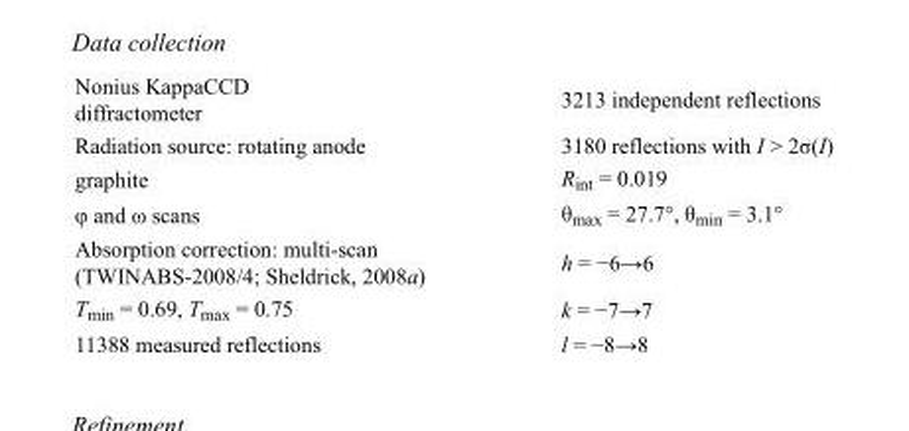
<table><tbody><tr><td>Nonius KappaCCD diffractometer</td><td>3213 independent reflections</td></tr><tr><td>Radiation source: rotating anode</td><td>3180 reflections with I &gt; 2σ(I)</td></tr><tr><td>graphite</td><td>R<sub>int</sub> = 0.019</td></tr><tr><td>φ and ω scans</td><td>θ<sub>max</sub> = 27.7°, θ<sub>min</sub> = 3.1°</td></tr><tr><td>Absorption correction: multi-scan (TWINABS-2008/4; Sheldrick, 2008a)</td><td>h = −6→6</td></tr><tr><td>T<sub>min</sub> = 0.69, T<sub>max</sub> = 0.75</td><td>k = −7→7</td></tr><tr><td>11388 measured reflections</td><td>l = −8→8</td></tr></tbody></table>